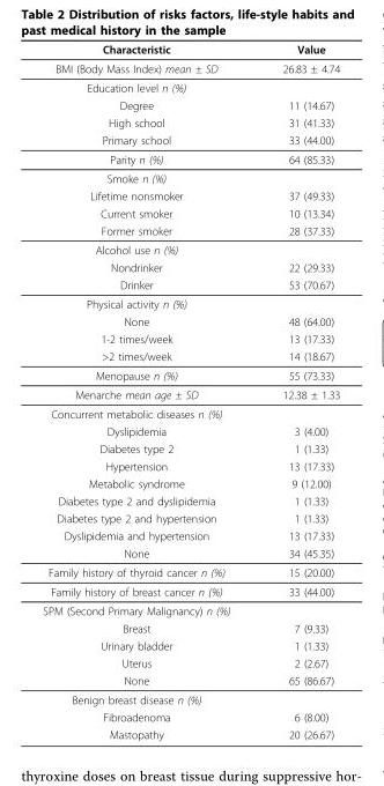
<table><thead><tr><td>Characteristic</td><td>Value</td></tr></thead><tbody><tr><td>BMI (Body Mass Index) mean ± SD</td><td>26.83 ± 4.74</td></tr><tr><td colspan="2">Education level n (%)</td></tr><tr><td>Degree</td><td>11 (14.67)</td></tr><tr><td>High school</td><td>31 (41.33)</td></tr><tr><td>Primary school</td><td>33 (44.00)</td></tr><tr><td>Parity n (%)</td><td>64 (85.33)</td></tr><tr><td colspan="2">Smoke n (%)</td></tr><tr><td>Lifetime nonsmoker</td><td>37 (49.33)</td></tr><tr><td>Current smoker</td><td>10 (13.34)</td></tr><tr><td>Former smoker</td><td>28 (37.33)</td></tr><tr><td colspan="2">Alcohol use n (%)</td></tr><tr><td>Nondrinker</td><td>22 (29.33)</td></tr><tr><td>Drinker</td><td>53 (70.67)</td></tr><tr><td colspan="2">Physical activity n (%)</td></tr><tr><td>None</td><td>48 (64.00)</td></tr><tr><td>1-2 times/week</td><td>13 (17.33)</td></tr><tr><td>&gt;2 times/week</td><td>14 (18.67)</td></tr><tr><td>Menopause n (%)</td><td>55 (73.33)</td></tr><tr><td>Menarche mean age ± SD</td><td>12.38 ± 1.33</td></tr><tr><td colspan="2">Concurrent metabolic diseases n (%)</td></tr><tr><td>Dyslipidemia</td><td>3 (4.00)</td></tr><tr><td>Diabetes type 2</td><td>1 (1.33)</td></tr><tr><td>Hypertension</td><td>13 (17.33)</td></tr><tr><td>Metabolic syndrome</td><td>9 (12.00)</td></tr><tr><td>Diabetes type 2 and dyslipidemia</td><td>1 (1.33)</td></tr><tr><td>Diabetes type 2 and hypertension</td><td>1 (1.33)</td></tr><tr><td>Dyslipidemia and hypertension</td><td>13 (17.33)</td></tr><tr><td>None</td><td>34 (45.35)</td></tr><tr><td>Family history of thyroid cancer n (%)</td><td>15 (20.00)</td></tr><tr><td>Family history of breast cancer n (%)</td><td>33 (44.00)</td></tr><tr><td colspan="2">SPM (Second Primary Malignancy) n (%)</td></tr><tr><td>Breast</td><td>7 (9.33)</td></tr><tr><td>Urinary bladder</td><td>1 (1.33)</td></tr><tr><td>Uterus</td><td>2 (2.67)</td></tr><tr><td>None</td><td>65 (86.67)</td></tr><tr><td colspan="2">Benign breast disease n (%)</td></tr><tr><td>Fibroadenoma</td><td>6 (8.00)</td></tr><tr><td>Mastopathy</td><td>20 (26.67)</td></tr></tbody></table>